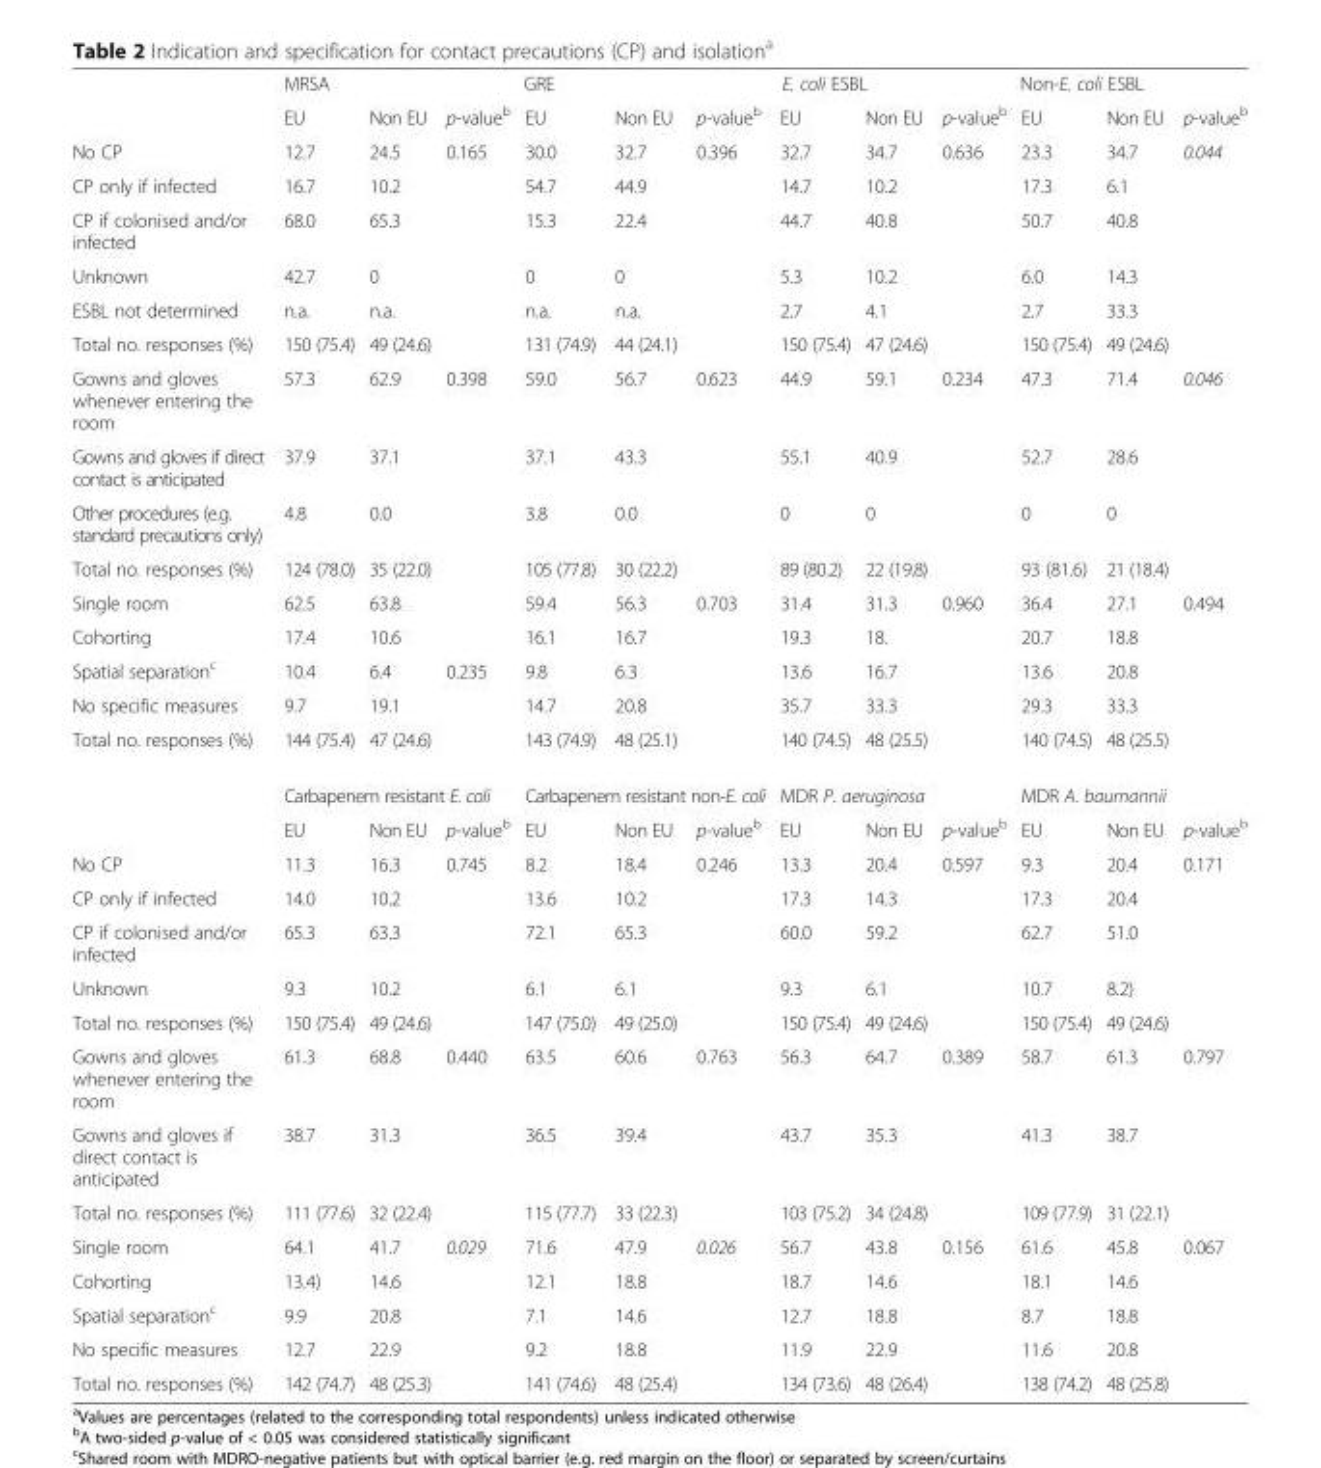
<table><thead><tr><td rowspan="2"></td><td colspan="2">MRSA</td><td colspan="3">GRE</td><td colspan="3">E. coli ESBL</td><td colspan="3">Non-E. coli ESBL</td><td rowspan="2">p-value<sup>b</sup></td></tr><tr><td>EU</td><td>Non EU</td><td>p-value<sup>b</sup></td><td>EU</td><td>Non EU</td><td>p-value<sup>b</sup></td><td>EU</td><td>Non EU</td><td>p-value<sup>b</sup></td><td>EU</td><td>Non EU</td></tr></thead><tbody><tr><td>No CP</td><td>12.7</td><td>24.5</td><td rowspan="6">0.165</td><td>30.0</td><td>32.7</td><td rowspan="6">0.396</td><td>32.7</td><td>34.7</td><td rowspan="6">0.636</td><td>23.3</td><td>34.7</td><td rowspan="6">0.044</td></tr><tr><td>CP only if infected</td><td>16.7</td><td>10.2</td><td>54.7</td><td>44.9</td><td>14.7</td><td>10.2</td><td>17.3</td><td>6.1</td></tr><tr><td>CP if colonised and/or infected</td><td>68.0</td><td>65.3</td><td>15.3</td><td>22.4</td><td>44.7</td><td>40.8</td><td>50.7</td><td>40.8</td></tr><tr><td>Unknown</td><td>42.7</td><td>0</td><td>0</td><td>0</td><td>5.3</td><td>10.2</td><td>6.0</td><td>14.3</td></tr><tr><td>ESBL not determined</td><td>n.a.</td><td>n.a.</td><td>n.a.</td><td>n.a.</td><td>2.7</td><td>4.1</td><td>2.7</td><td>33.3</td></tr><tr><td>Total no. responses (%)</td><td>150 (75.4)</td><td>49 (24.6)</td><td>131 (74.9)</td><td>44 (24.1)</td><td>150 (75.4)</td><td>47 (24.6)</td><td>150 (75.4)</td><td>49 (24.6)</td></tr><tr><td>Gowns and gloves whenever entering the room</td><td>57.3</td><td>62.9</td><td rowspan="4">0.398</td><td>59.0</td><td>56.7</td><td rowspan="4">0.623</td><td>44.9</td><td>59.1</td><td rowspan="4">0.234</td><td>47.3</td><td>71.4</td><td rowspan="4">0.046</td></tr><tr><td>Gowns and gloves if direct contact is anticipated</td><td>37.9</td><td>37.1</td><td>37.1</td><td>43.3</td><td>55.1</td><td>40.9</td><td>52.7</td><td>28.6</td></tr><tr><td>Other procedures (e.g. standard precautions only)</td><td>4.8</td><td>0.0</td><td>3.8</td><td>0.0</td><td>0</td><td>0</td><td>0</td><td>0</td></tr><tr><td>Total no. responses (%)</td><td>124 (78.0)</td><td>35 (22.0)</td><td>105 (77.8)</td><td>30 (22.2)</td><td>89 (80.2)</td><td>22 (19.8)</td><td>93 (81.6)</td><td>21 (18.4)</td></tr><tr><td>Single room</td><td>62.5</td><td>63.8</td><td></td><td>59.4</td><td>56.3</td><td rowspan="5">0.703</td><td>31.4</td><td>31.3</td><td rowspan="5">0.960</td><td>36.4</td><td>27.1</td><td rowspan="5">0.494</td></tr><tr><td>Cohorting</td><td>17.4</td><td>10.6</td><td></td><td>16.1</td><td>16.7</td><td>19.3</td><td>18.</td><td>20.7</td><td>18.8</td></tr><tr><td>Spatial separation<sup>c</sup></td><td>10.4</td><td>6.4</td><td>0.235</td><td>9.8</td><td>6.3</td><td>13.6</td><td>16.7</td><td>13.6</td><td>20.8</td></tr><tr><td>No specific measures</td><td>9.7</td><td>19.1</td><td></td><td>14.7</td><td>20.8</td><td>35.7</td><td>33.3</td><td>29.3</td><td>33.3</td></tr><tr><td rowspan="3">Total no. responses (%)</td><td>144 (75.4)</td><td>47 (24.6)</td><td></td><td>143 (74.9)</td><td>48 (25.1)</td><td>140 (74.5)</td><td>48 (25.5)</td><td>140 (74.5)</td><td>48 (25.5)</td></tr><tr><td colspan="3">Carbapenem resistant E. coli</td><td colspan="3">Carbapenem resistant non-E. coli</td><td colspan="3">MDR P. aeruginosa</td><td colspan="3">MDR A. baumannii</td></tr><tr><td>EU</td><td>Non EU</td><td>p-value<sup>b</sup></td><td>EU</td><td>Non EU</td><td>p-value<sup>b</sup></td><td>EU</td><td>Non EU</td><td>p-value<sup>b</sup></td><td>EU</td><td>Non EU</td><td>p-value<sup>b</sup></td></tr><tr><td>No CP</td><td>11.3</td><td>16.3</td><td rowspan="5">0.745</td><td>8.2</td><td>18.4</td><td rowspan="5">0.246</td><td>13.3</td><td>20.4</td><td rowspan="5">0.597</td><td>9.3</td><td>20.4</td><td rowspan="5">0.171</td></tr><tr><td>CP only if infected</td><td>14.0</td><td>10.2</td><td>13.6</td><td>10.2</td><td>17.3</td><td>14.3</td><td>17.3</td><td>20.4</td></tr><tr><td>CP if colonised and/or infected</td><td>65.3</td><td>63.3</td><td>72.1</td><td>65.3</td><td>60.0</td><td>59.2</td><td>62.7</td><td>51.0</td></tr><tr><td>Unknown</td><td>9.3</td><td>10.2</td><td>6.1</td><td>6.1</td><td>9.3</td><td>6.1</td><td>10.7</td><td>8.2)</td></tr><tr><td>Total no. responses (%)</td><td>150 (75.4)</td><td>49 (24.6)</td><td>147 (75.0)</td><td>49 (25.0)</td><td>150 (75.4)</td><td>49 (24.6)</td><td>150 (75.4)</td><td>49 (24.6)</td></tr><tr><td>Gowns and gloves whenever entering the room</td><td>61.3</td><td>68.8</td><td rowspan="3">0.440</td><td>63.5</td><td>60.6</td><td rowspan="3">0.763</td><td>56.3</td><td>64.7</td><td rowspan="3">0.389</td><td>58.7</td><td>61.3</td><td rowspan="3">0.797</td></tr><tr><td>Gowns and gloves if direct contact is anticipated</td><td>38.7</td><td>31.3</td><td>36.5</td><td>39.4</td><td>43.7</td><td>35.3</td><td>41.3</td><td>38.7</td></tr><tr><td>Total no. responses (%)</td><td>111 (77.6)</td><td>32 (22.4)</td><td>115 (77.7)</td><td>33 (22.3)</td><td>103 (75.2)</td><td>34 (24.8)</td><td>109 (77.9)</td><td>31 (22.1)</td></tr><tr><td>Single room</td><td>64.1</td><td>41.7</td><td rowspan="5">0.029</td><td>71.6</td><td>47.9</td><td rowspan="5">0.026</td><td>56.7</td><td>43.8</td><td rowspan="5">0.156</td><td>61.6</td><td>45.8</td><td rowspan="5">0.067</td></tr><tr><td>Cohorting</td><td>13.4)</td><td>14.6</td><td>12.1</td><td>18.8</td><td>18.7</td><td>14.6</td><td>18.1</td><td>14.6</td></tr><tr><td>Spatial separation<sup>c</sup></td><td>9.9</td><td>20.8</td><td>7.1</td><td>14.6</td><td>12.7</td><td>18.8</td><td>8.7</td><td>18.8</td></tr><tr><td>No specific measures</td><td>12.7</td><td>22.9</td><td>9.2</td><td>18.8</td><td>11.9</td><td>22.9</td><td>11.6</td><td>20.8</td></tr><tr><td>Total no. responses (%)</td><td>142 (74.7)</td><td>48 (25.3)</td><td>141 (74.6)</td><td>48 (25.4)</td><td>134 (73.6)</td><td>48 (26.4)</td><td>138 (74.2)</td><td>48 (25.8)</td></tr></tbody></table>